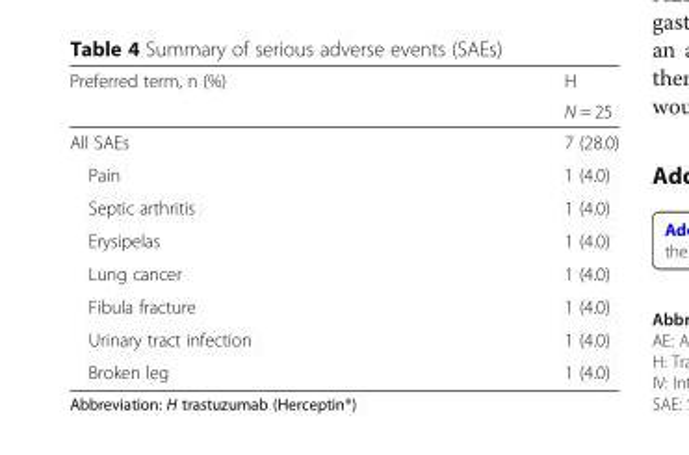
<table><thead><tr><td rowspan="2">Preferred term, n (%)</td><td rowspan="2">H N = 25</td></tr><tr></tr></thead><tbody><tr><td>All SAEs</td><td>7 (28.0)</td></tr><tr><td>Pain</td><td>1 (4.0)</td></tr><tr><td>Septic arthritis</td><td>1 (4.0)</td></tr><tr><td>Erysipelas</td><td>1 (4.0)</td></tr><tr><td>Lung cancer</td><td>1 (4.0)</td></tr><tr><td>Fibula fracture</td><td>1 (4.0)</td></tr><tr><td>Urinary tract infection</td><td>1 (4.0)</td></tr><tr><td>Broken leg</td><td>1 (4.0)</td></tr></tbody></table>